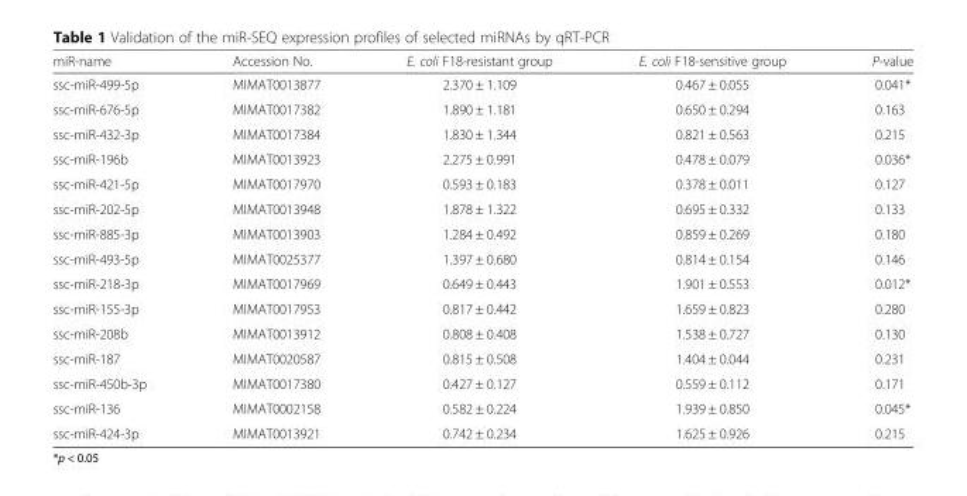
<table><thead><tr><td>miR-name</td><td>Accession No.</td><td>E. coli F18-resistant group</td><td>E. coli F18-sensitive group</td><td>P-value</td></tr></thead><tbody><tr><td>ssc-miR-499-5p</td><td>MIMAT0013877</td><td>2.370 ± 1.109</td><td>0.467 ± 0.055</td><td>0.041*</td></tr><tr><td>ssc-miR-676-5p</td><td>MIMAT0017382</td><td>1.890 ± 1.181</td><td>0.650 ± 0.294</td><td>0.163</td></tr><tr><td>ssc-miR-432-3p</td><td>MIMAT0017384</td><td>1.830 ± 1.344</td><td>0.821 ± 0.563</td><td>0.215</td></tr><tr><td>ssc-miR-196b</td><td>MIMAT0013923</td><td>2.275 ± 0.991</td><td>0.478 ± 0.079</td><td>0.036*</td></tr><tr><td>ssc-miR-421-5p</td><td>MIMAT0017970</td><td>0.593 ± 0.183</td><td>0.378 ± 0.011</td><td>0.127</td></tr><tr><td>ssc-miR-202-5p</td><td>MIMAT0013948</td><td>1.878 ± 1.322</td><td>0.695 ± 0.332</td><td>0.133</td></tr><tr><td>ssc-miR-885-3p</td><td>MIMAT0013903</td><td>1.284 ± 0.492</td><td>0.859 ± 0.269</td><td>0.180</td></tr><tr><td>ssc-miR-493-5p</td><td>MIMAT0025377</td><td>1.397 ± 0.680</td><td>0.814 ± 0.154</td><td>0.146</td></tr><tr><td>ssc-miR-218-3p</td><td>MIMAT0017969</td><td>0.649 ± 0.443</td><td>1.901 ± 0.553</td><td>0.012*</td></tr><tr><td>ssc-miR-155-3p</td><td>MIMAT0017953</td><td>0.817 ± 0.442</td><td>1.659 ± 0.823</td><td>0.280</td></tr><tr><td>ssc-miR-208b</td><td>MIMAT0013912</td><td>0.808 ± 0.408</td><td>1.538 ± 0.727</td><td>0.130</td></tr><tr><td>ssc-miR-187</td><td>MIMAT0020587</td><td>0.815 ± 0.508</td><td>1.404 ± 0.044</td><td>0.231</td></tr><tr><td>ssc-miR-450b-3p</td><td>MIMAT0017380</td><td>0.427 ± 0.127</td><td>0.559 ± 0.112</td><td>0.171</td></tr><tr><td>ssc-miR-136</td><td>MIMAT0002158</td><td>0.582 ± 0.224</td><td>1.939 ± 0.850</td><td>0.045*</td></tr><tr><td>ssc-miR-424-3p</td><td>MIMAT0013921</td><td>0.742 ± 0.234</td><td>1.625 ± 0.926</td><td>0.215</td></tr></tbody></table>